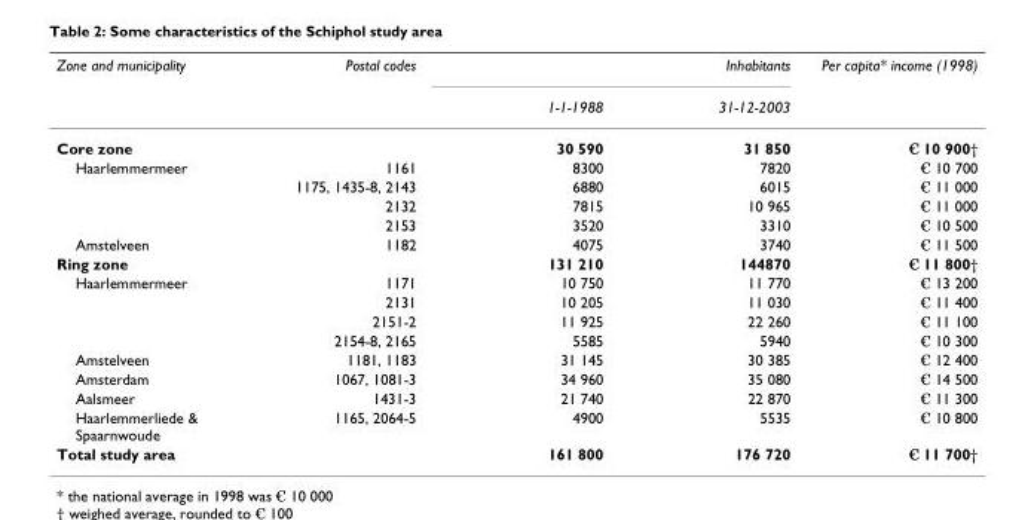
<table><thead><tr><td rowspan="2">Zone and municipality</td><td rowspan="2">Postal codes</td><td colspan="2">Inhabitants</td><td rowspan="2">Per capita* income (1998)</td></tr><tr><td>1-1-1988</td><td>31-12-2003</td></tr></thead><tbody><tr><td>Core zone</td><td></td><td>30 590</td><td>31 850</td><td>€ 10 900†</td></tr><tr><td rowspan="4">Haarlemmermeer</td><td>1161</td><td>8300</td><td>7820</td><td>€ 10 700</td></tr><tr><td>1175, 1435-8, 2143</td><td>6880</td><td>6015</td><td>€ 11 000</td></tr><tr><td>2132</td><td>7815</td><td>10 965</td><td>€ 11 000</td></tr><tr><td>2153</td><td>3520</td><td>3310</td><td>€ 10 500</td></tr><tr><td>Amstelveen</td><td>1182</td><td>4075</td><td>3740</td><td>€ 11 500</td></tr><tr><td>Ring zone</td><td></td><td>131 210</td><td>144870</td><td>€ 11 800†</td></tr><tr><td rowspan="4">Haarlemmermeer</td><td>1171</td><td>10 750</td><td>11 770</td><td>€ 13 200</td></tr><tr><td>2131</td><td>10 205</td><td>11 030</td><td>€ 11 400</td></tr><tr><td>2151-2</td><td>11 925</td><td>22 260</td><td>€ 11 100</td></tr><tr><td>2154-8, 2165</td><td>5585</td><td>5940</td><td>€ 10 300</td></tr><tr><td>Amstelveen</td><td>1181, 1183</td><td>31 145</td><td>30 385</td><td>€ 12 400</td></tr><tr><td>Amsterdam</td><td>1067, 1081-3</td><td>34 960</td><td>35 080</td><td>€ 14 500</td></tr><tr><td>Aalsmeer</td><td>1431-3</td><td>21 740</td><td>22 870</td><td>€ 11 300</td></tr><tr><td>Haarlemmerliede &amp; Spaarnwoude</td><td>1165, 2064-5</td><td>4900</td><td>5535</td><td>€ 10 800</td></tr><tr><td>Total study area</td><td></td><td>161 800</td><td>176 720</td><td>€ 11 700†</td></tr></tbody></table>